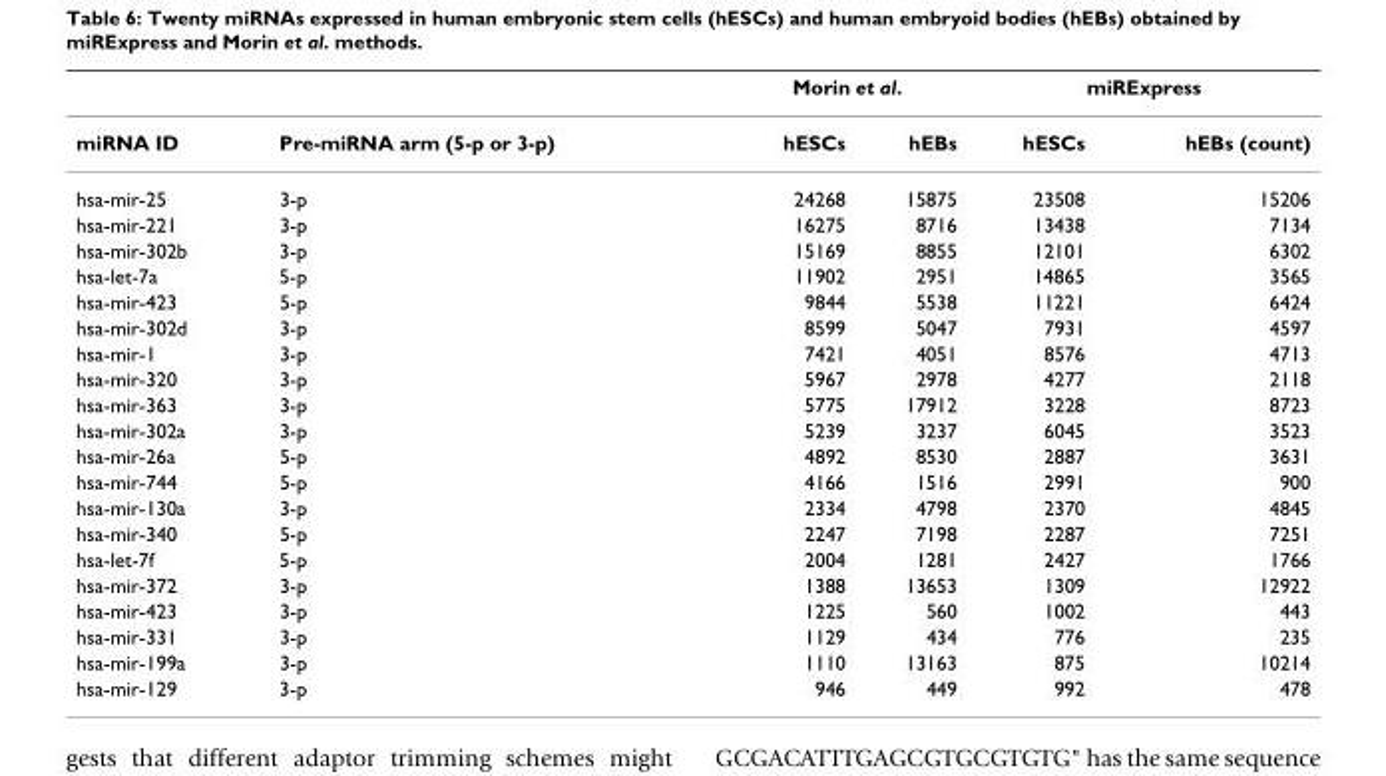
<table><thead><tr><td rowspan="2">miRNA ID</td><td rowspan="2">Pre-miRNA arm (5-p or 3-p)</td><td colspan="2">Morin et al.</td><td colspan="2">miRExpress</td></tr><tr><td>hESCs</td><td>hEBs</td><td>hESCs</td><td>hEBs (count)</td></tr></thead><tbody><tr><td>hsa-mir-25</td><td>3-p</td><td>24268</td><td>15875</td><td>23508</td><td>15206</td></tr><tr><td>hsa-mir-221</td><td>3-p</td><td>16275</td><td>8716</td><td>13438</td><td>7134</td></tr><tr><td>hsa-mir-302b</td><td>3-p</td><td>15169</td><td>8855</td><td>12101</td><td>6302</td></tr><tr><td>hsa-let-7a</td><td>5-p</td><td>11902</td><td>2951</td><td>14865</td><td>3565</td></tr><tr><td>hsa-mir-423</td><td>5-p</td><td>9844</td><td>5538</td><td>11221</td><td>6424</td></tr><tr><td>hsa-mir-302d</td><td>3-p</td><td>8599</td><td>5047</td><td>7931</td><td>4597</td></tr><tr><td>hsa-mir-1</td><td>3-p</td><td>7421</td><td>4051</td><td>8576</td><td>4713</td></tr><tr><td>hsa-mir-320</td><td>3-p</td><td>5967</td><td>2978</td><td>4277</td><td>2118</td></tr><tr><td>hsa-mir-363</td><td>3-p</td><td>5775</td><td>17912</td><td>3228</td><td>8723</td></tr><tr><td>hsa-mir-302a</td><td>3-p</td><td>5239</td><td>3237</td><td>6045</td><td>3523</td></tr><tr><td>hsa-mir-26a</td><td>5-p</td><td>4892</td><td>8530</td><td>2887</td><td>3631</td></tr><tr><td>hsa-mir-744</td><td>5-p</td><td>4166</td><td>1516</td><td>2991</td><td>900</td></tr><tr><td>hsa-mir-130a</td><td>3-p</td><td>2334</td><td>4798</td><td>2370</td><td>4845</td></tr><tr><td>hsa-mir-340</td><td>5-p</td><td>2247</td><td>7198</td><td>2287</td><td>7251</td></tr><tr><td>hsa-let-7f</td><td>5-p</td><td>2004</td><td>1281</td><td>2427</td><td>1766</td></tr><tr><td>hsa-mir-372</td><td>3-p</td><td>1388</td><td>13653</td><td>1309</td><td>12922</td></tr><tr><td>hsa-mir-423</td><td>3-p</td><td>1225</td><td>560</td><td>1002</td><td>443</td></tr><tr><td>hsa-mir-331</td><td>3-p</td><td>1129</td><td>434</td><td>776</td><td>235</td></tr><tr><td>hsa-mir-199a</td><td>3-p</td><td>1110</td><td>13163</td><td>875</td><td>10214</td></tr><tr><td>hsa-mir-129</td><td>3-p</td><td>946</td><td>449</td><td>992</td><td>478</td></tr></tbody></table>